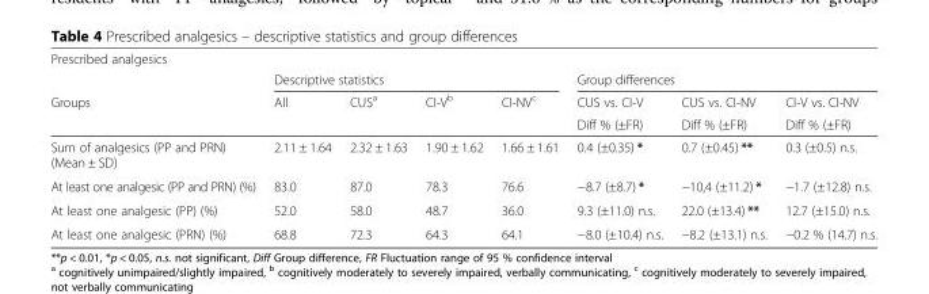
<table><thead><tr><td colspan="8">Prescribed analgesics</td></tr><tr><td rowspan="3">Groups</td><td colspan="4">Descriptive statistics</td><td colspan="3">Group differences</td></tr><tr><td rowspan="2">All</td><td rowspan="2">CUS<sup>a</sup></td><td rowspan="2">CI-V<sup>b</sup></td><td rowspan="2">CI-NV<sup>c</sup></td><td rowspan="2">CUS vs. CI-V Diff % (±FR)</td><td rowspan="2">CUS vs. CI-NV Diff % (±FR)</td><td rowspan="2">CI-V vs. CI-NV Diff % (±FR)</td></tr><tr></tr></thead><tbody><tr><td>Sum of analgesics (PP and PRN) (Mean ± SD)</td><td>2.11 ± 1.64</td><td>2.32 ± 1.63</td><td>1.90 ± 1.62</td><td>1.66 ± 1.61</td><td>0.4 (±0.35) *</td><td>0.7 (±0.45) **</td><td>0.3 (±0.5) n.s.</td></tr><tr><td>At least one analgesic (PP and PRN) (%)</td><td>83.0</td><td>87.0</td><td>78.3</td><td>76.6</td><td>−8.7 (±8.7) *</td><td>−10,4 (±11.2) *</td><td>−1.7 (±12.8) n.s.</td></tr><tr><td>At least one analgesic (PP) (%)</td><td>52.0</td><td>58.0</td><td>48.7</td><td>36.0</td><td>9.3 (±11.0) n.s.</td><td>22.0 (±13.4) **</td><td>12.7 (±15.0) n.s.</td></tr><tr><td>At least one analgesic (PRN) (%)</td><td>68.8</td><td>72.3</td><td>64.3</td><td>64.1</td><td>−8.0 (±10.4) n.s.</td><td>−8.2 (±13.1) n.s.</td><td>−0.2 % (14.7) n.s.</td></tr></tbody></table>